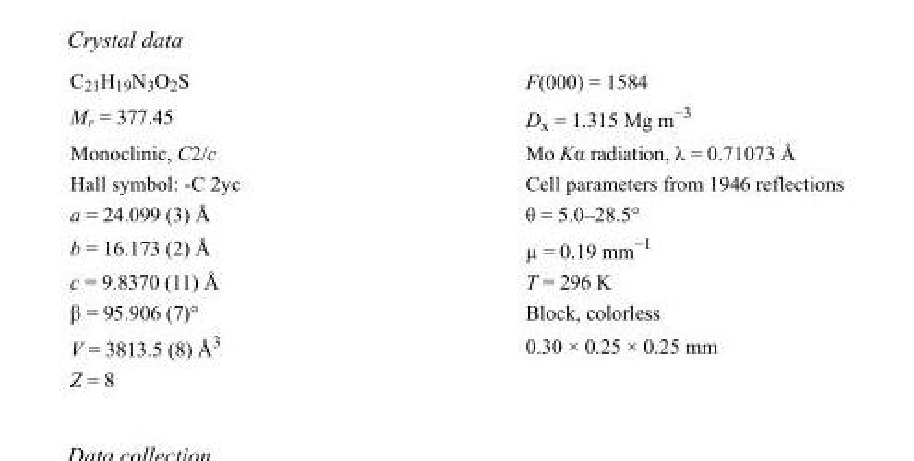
<table><tbody><tr><td>C<sub>21</sub>H<sub>19</sub>N<sub>3</sub>O<sub>2</sub>S</td><td>F(000) = 1584</td></tr><tr><td>M<sub>r</sub> = 377.45</td><td>D<sub>x</sub> = 1.315 Mg m<sup>−3</sup></td></tr><tr><td>Monoclinic, C2/c</td><td>Mo Kα radiation, λ = 0.71073 Å</td></tr><tr><td>Hall symbol: -C 2yc</td><td>Cell parameters from 1946 reflections</td></tr><tr><td>a = 24.099 (3) Å</td><td>θ = 5.0–28.5°</td></tr><tr><td>b = 16.173 (2) Å</td><td>µ = 0.19 mm<sup>−1</sup></td></tr><tr><td>c = 9.8370 (11) Å</td><td>T = 296 K</td></tr><tr><td>β = 95.906 (7)°</td><td>Block, colorless</td></tr><tr><td>V = 3813.5 (8) Å<sup>3</sup></td><td>0.30 × 0.25 × 0.25 mm</td></tr><tr><td>Z = 8</td><td></td></tr></tbody></table>